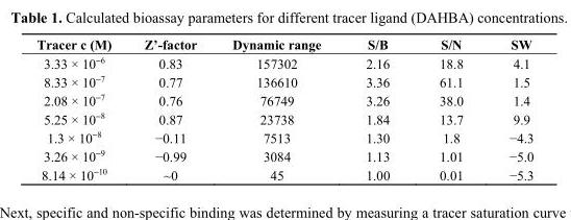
<table><thead><tr><td>Tracer c (M)</td><td>Z’-factor</td><td>Dynamic range</td><td>S/B</td><td>S/N</td><td>SW</td></tr></thead><tbody><tr><td>3.33 × 10<sup>−6</sup></td><td>0.83</td><td>157302</td><td>2.16</td><td>18.8</td><td>4.1</td></tr><tr><td>8.33 × 10<sup>−7</sup></td><td>0.77</td><td>136610</td><td>3.36</td><td>61.1</td><td>1.5</td></tr><tr><td>2.08 × 10<sup>−7</sup></td><td>0.76</td><td>76749</td><td>3.26</td><td>38.0</td><td>1.4</td></tr><tr><td>5.25 × 10<sup>−8</sup></td><td>0.87</td><td>23738</td><td>1.84</td><td>13.7</td><td>9.9</td></tr><tr><td>1.3 × 10<sup>−8</sup></td><td>−0.11</td><td>7513</td><td>1.30</td><td>1.8</td><td>−4.3</td></tr><tr><td>3.26 × 10<sup>−9</sup></td><td>−0.99</td><td>3084</td><td>1.13</td><td>1.01</td><td>−5.0</td></tr><tr><td>8.14 × 10<sup>−10</sup></td><td>~0</td><td>45</td><td>1.00</td><td>0.01</td><td>−5.3</td></tr></tbody></table>